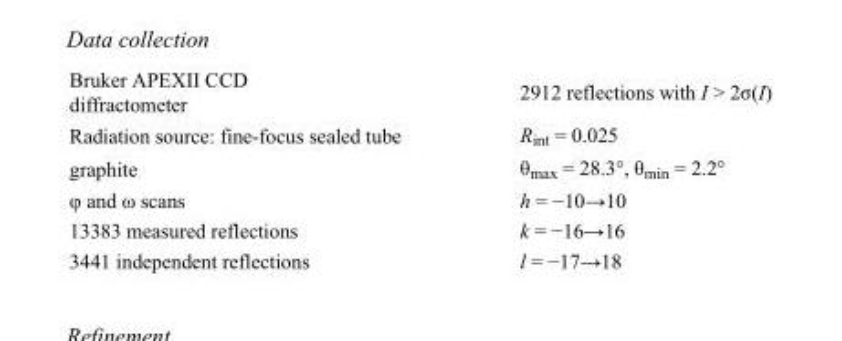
<table><tbody><tr><td>Bruker APEXII CCD diffractometer</td><td>2912 reflections with I &gt; 2σ(I)</td></tr><tr><td>Radiation source: fine-focus sealed tube</td><td>R<sub>int</sub> = 0.025</td></tr><tr><td>graphite</td><td>θ<sub>max</sub> = 28.3°, θ<sub>min</sub> = 2.2°</td></tr><tr><td>φ and ω scans</td><td>h = −10→10</td></tr><tr><td>13383 measured reflections</td><td>k = −16→16</td></tr><tr><td>3441 independent reflections</td><td>l = −17→18</td></tr></tbody></table>